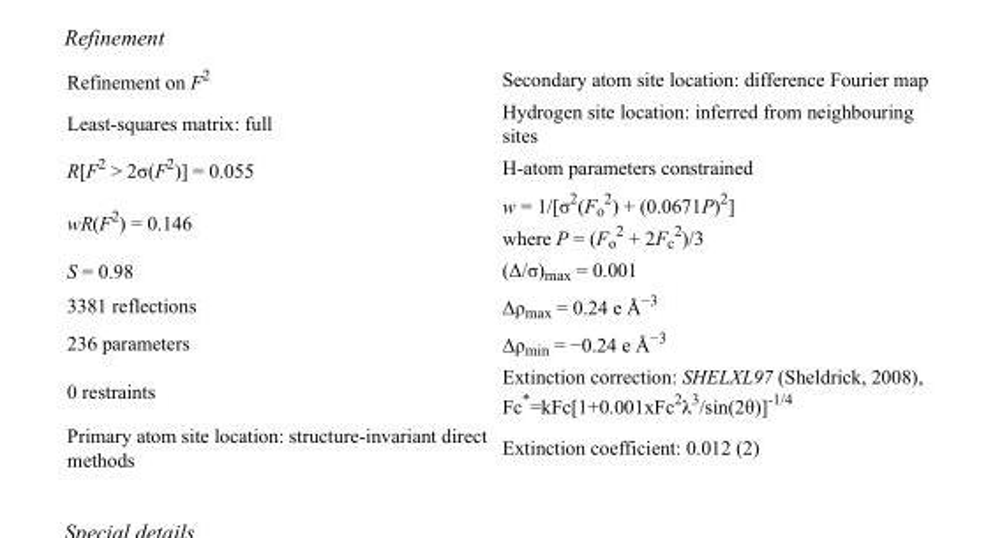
<table><tbody><tr><td>Refinement on F<sup>2</sup></td><td>Secondary atom site location: difference Fourier map</td></tr><tr><td>Least-squares matrix: full</td><td>Hydrogen site location: inferred from neighbouring sites</td></tr><tr><td>R[F<sup>2</sup> &gt; 2σ(F<sup>2</sup>)] = 0.055</td><td>H-atom parameters constrained</td></tr><tr><td>wR(F<sup>2</sup>) = 0.146</td><td>w = 1/[σ<sup>2</sup>(F<sub>o</sub> <sup>2</sup>) + (0.0671P)<sup>2</sup>] where P = (F<sub>o</sub> <sup>2</sup> + 2F<sub>c</sub> <sup>2</sup>)/3</td></tr><tr><td>S = 0.98</td><td>(Δ/σ)<sub>max</sub> = 0.001</td></tr><tr><td>3381 reflections</td><td>Δρ<sub>max</sub> = 0.24 e Å<sup>−3</sup></td></tr><tr><td>236 parameters</td><td>Δρ<sub>min</sub> = −0.24 e Å<sup>−3</sup></td></tr><tr><td>0 restraints</td><td>Extinction correction: SHELXL97 (Sheldrick, 2008), Fc*=kFc[1+0.001xFc<sup>2</sup>λ<sup>3</sup>/sin(2θ)]<sup>-1/4</sup></td></tr><tr><td>Primary atom site location: structure-invariant direct methods</td><td>Extinction coefficient: 0.012 (2)</td></tr></tbody></table>